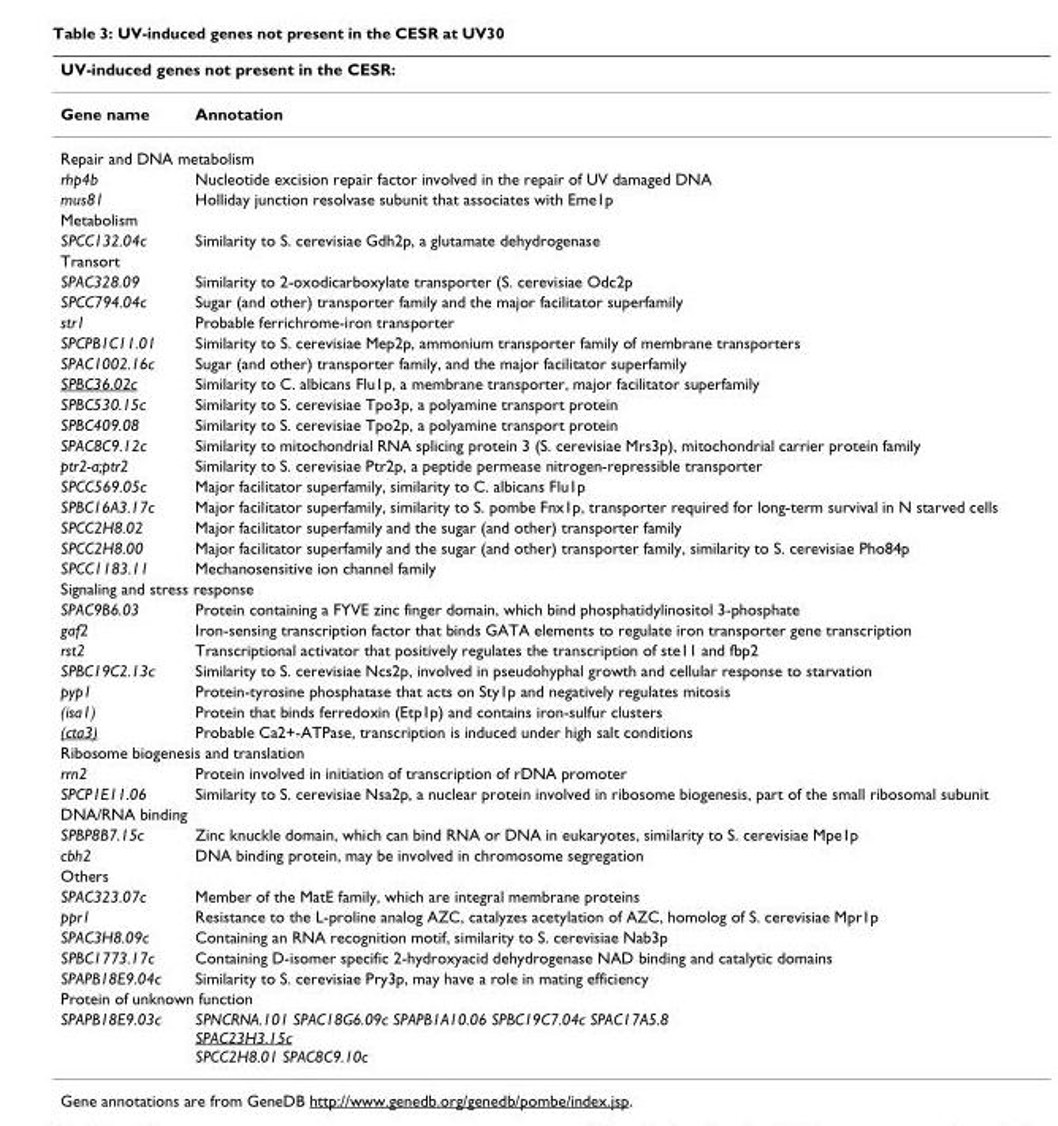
<table><thead><tr><td colspan="2">UV-induced genes not present in the CESR:</td></tr><tr><td>Gene name</td><td>Annotation</td></tr></thead><tbody><tr><td colspan="2">Repair and DNA metabolism</td></tr><tr><td>rhp4b</td><td>Nucleotide excision repair factor involved in the repair of UV damaged DNA</td></tr><tr><td>mus81</td><td>Holliday junction resolvase subunit that associates with Eme1p</td></tr><tr><td colspan="2">Metabolism</td></tr><tr><td>SPCC132.04c</td><td>Similarity to S. cerevisiae Gdh2p, a glutamate dehydrogenase</td></tr><tr><td colspan="2">Transort</td></tr><tr><td>SPAC328.09</td><td>Similarity to 2-oxodicarboxylate transporter (S. cerevisiae Odc2p</td></tr><tr><td>SPCC794.04c</td><td>Sugar (and other) transporter family and the major facilitator superfamily</td></tr><tr><td>str1</td><td>Probable ferrichrome-iron transporter</td></tr><tr><td>SPCPB1C11.01</td><td>Similarity to S. cerevisiae Mep2p, ammonium transporter family of membrane transporters</td></tr><tr><td>SPAC1002.16c</td><td>Sugar (and other) transporter family, and the major facilitator superfamily</td></tr><tr><td>SPBC36.02c</td><td>Similarity to C. albicans Flu1p, a membrane transporter, major facilitator superfamily</td></tr><tr><td>SPBC530.15c</td><td>Similarity to S. cerevisiae Tpo3p, a polyamine transport protein</td></tr><tr><td>SPBC409.08</td><td>Similarity to S. cerevisiae Tpo2p, a polyamine transport protein</td></tr><tr><td>SPAC8C9.12c</td><td>Similarity to mitochondrial RNA splicing protein 3 (S. cerevisiae Mrs3p), mitochondrial carrier protein family</td></tr><tr><td>ptr2-a;ptr2</td><td>Similarity to S. cerevisiae Ptr2p, a peptide permease nitrogen-repressible transporter</td></tr><tr><td>SPCC569.05c</td><td>Major facilitator superfamily, similarity to C. albicans Flu1p</td></tr><tr><td>SPBC16A3.17c</td><td>Major facilitator superfamily, similarity to S. pombe Fnx1p, transporter required for long-term survival in N starved cells</td></tr><tr><td>SPCC2H8.02</td><td>Major facilitator superfamily and the sugar (and other) transporter family</td></tr><tr><td>SPCC2H8.00</td><td>Major facilitator superfamily and the sugar (and other) transporter family, similarity to S. cerevisiae Pho84p</td></tr><tr><td>SPCC1183.11</td><td>Mechanosensitive ion channel family</td></tr><tr><td colspan="2">Signaling and stress response</td></tr><tr><td>SPAC9B6.03</td><td>Protein containing a FYVE zinc finger domain, which bind phosphatidylinositol 3-phosphate</td></tr><tr><td>gaf2</td><td>Iron-sensing transcription factor that binds GATA elements to regulate iron transporter gene transcription</td></tr><tr><td>rst2</td><td>Transcriptional activator that positively regulates the transcription of ste11 and fbp2</td></tr><tr><td>SPBC19C2.13c</td><td>Similarity to S. cerevisiae Ncs2p, involved in pseudohyphal growth and cellular response to starvation</td></tr><tr><td>pyp1</td><td>Protein-tyrosine phosphatase that acts on Sty1p and negatively regulates mitosis</td></tr><tr><td>(isa1)</td><td>Protein that binds ferredoxin (Etp1p) and contains iron-sulfur clusters</td></tr><tr><td>(cta3)</td><td>Probable Ca2+-ATPase, transcription is induced under high salt conditions</td></tr><tr><td colspan="2">Ribosome biogenesis and translation</td></tr><tr><td>rrn2</td><td>Protein involved in initiation of transcription of rDNA promoter</td></tr><tr><td>SPCP1E11.06</td><td>Similarity to S. cerevisiae Nsa2p, a nuclear protein involved in ribosome biogenesis, part of the small ribosomal subunit</td></tr><tr><td colspan="2">DNA/RNA binding</td></tr><tr><td>SPBP8B7.15c</td><td>Zinc knuckle domain, which can bind RNA or DNA in eukaryotes, similarity to S. cerevisiae Mpe1p</td></tr><tr><td>cbh2</td><td>DNA binding protein, may be involved in chromosome segregation</td></tr><tr><td colspan="2">Others</td></tr><tr><td>SPAC323.07c</td><td>Member of the MatE family, which are integral membrane proteins</td></tr><tr><td>ppr1</td><td>Resistance to the L-proline analog AZC, catalyzes acetylation of AZC, homolog of S. cerevisiae Mpr1p</td></tr><tr><td>SPAC3H8.09c</td><td>Containing an RNA recognition motif, similarity to S. cerevisiae Nab3p</td></tr><tr><td>SPBC1773.17c</td><td>Containing D-isomer specific 2-hydroxyacid dehydrogenase NAD binding and catalytic domains</td></tr><tr><td>SPAPB18E9.04c</td><td>Similarity to S. cerevisiae Pry3p, may have a role in mating efficiency</td></tr><tr><td colspan="2">Protein of unknown function</td></tr><tr><td>SPAPB18E9.03c</td><td>SPNCRNA.101 SPAC18G6.09c SPAPB1A10.06 SPBC19C7.04c SPAC17A5.8 SPAC23H3.15c SPCC2H8.01 SPAC8C9.10c</td></tr></tbody></table>